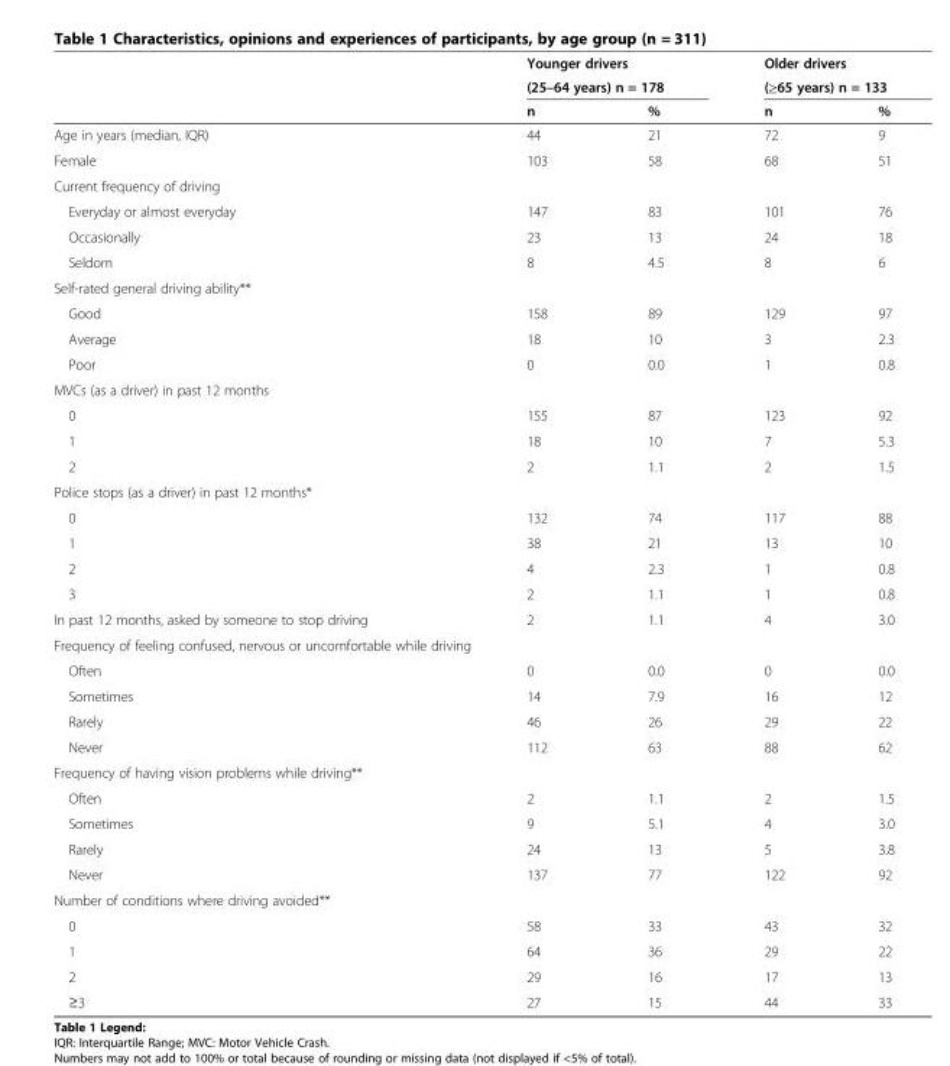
<table><thead><tr><td rowspan="3"></td><td rowspan="2" colspan="2">Younger drivers (25–64 years) n = 178</td><td rowspan="2" colspan="2">Older drivers (≥65 years) n = 133</td></tr><tr></tr><tr><td>n</td><td>%</td><td>n</td><td>%</td></tr></thead><tbody><tr><td>Age in years (median, IQR)</td><td>44</td><td>21</td><td>72</td><td>9</td></tr><tr><td>Female</td><td>103</td><td>58</td><td>68</td><td>51</td></tr><tr><td colspan="5">Current frequency of driving</td></tr><tr><td>Everyday or almost everyday</td><td>147</td><td>83</td><td>101</td><td>76</td></tr><tr><td>Occasionally</td><td>23</td><td>13</td><td>24</td><td>18</td></tr><tr><td>Seldom</td><td>8</td><td>4.5</td><td>8</td><td>6</td></tr><tr><td colspan="5">Self-rated general driving ability**</td></tr><tr><td>Good</td><td>158</td><td>89</td><td>129</td><td>97</td></tr><tr><td>Average</td><td>18</td><td>10</td><td>3</td><td>2.3</td></tr><tr><td>Poor</td><td>0</td><td>0.0</td><td>1</td><td>0.8</td></tr><tr><td colspan="5">MVCs (as a driver) in past 12 months</td></tr><tr><td>0</td><td>155</td><td>87</td><td>123</td><td>92</td></tr><tr><td>1</td><td>18</td><td>10</td><td>7</td><td>5.3</td></tr><tr><td>2</td><td>2</td><td>1.1</td><td>2</td><td>1.5</td></tr><tr><td colspan="5">Police stops (as a driver) in past 12 months*</td></tr><tr><td>0</td><td>132</td><td>74</td><td>117</td><td>88</td></tr><tr><td>1</td><td>38</td><td>21</td><td>13</td><td>10</td></tr><tr><td>2</td><td>4</td><td>2.3</td><td>1</td><td>0.8</td></tr><tr><td>3</td><td>2</td><td>1.1</td><td>1</td><td>0.8</td></tr><tr><td>In past 12 months, asked by someone to stop driving</td><td>2</td><td>1.1</td><td>4</td><td>3.0</td></tr><tr><td colspan="5">Frequency of feeling confused, nervous or uncomfortable while driving</td></tr><tr><td>Often</td><td>0</td><td>0.0</td><td>0</td><td>0.0</td></tr><tr><td>Sometimes</td><td>14</td><td>7.9</td><td>16</td><td>12</td></tr><tr><td>Rarely</td><td>46</td><td>26</td><td>29</td><td>22</td></tr><tr><td>Never</td><td>112</td><td>63</td><td>88</td><td>62</td></tr><tr><td colspan="5">Frequency of having vision problems while driving**</td></tr><tr><td>Often</td><td>2</td><td>1.1</td><td>2</td><td>1.5</td></tr><tr><td>Sometimes</td><td>9</td><td>5.1</td><td>4</td><td>3.0</td></tr><tr><td>Rarely</td><td>24</td><td>13</td><td>5</td><td>3.8</td></tr><tr><td>Never</td><td>137</td><td>77</td><td>122</td><td>92</td></tr><tr><td colspan="5">Number of conditions where driving avoided**</td></tr><tr><td>0</td><td>58</td><td>33</td><td>43</td><td>32</td></tr><tr><td>1</td><td>64</td><td>36</td><td>29</td><td>22</td></tr><tr><td>2</td><td>29</td><td>16</td><td>17</td><td>13</td></tr><tr><td>≥3</td><td>27</td><td>15</td><td>44</td><td>33</td></tr></tbody></table>